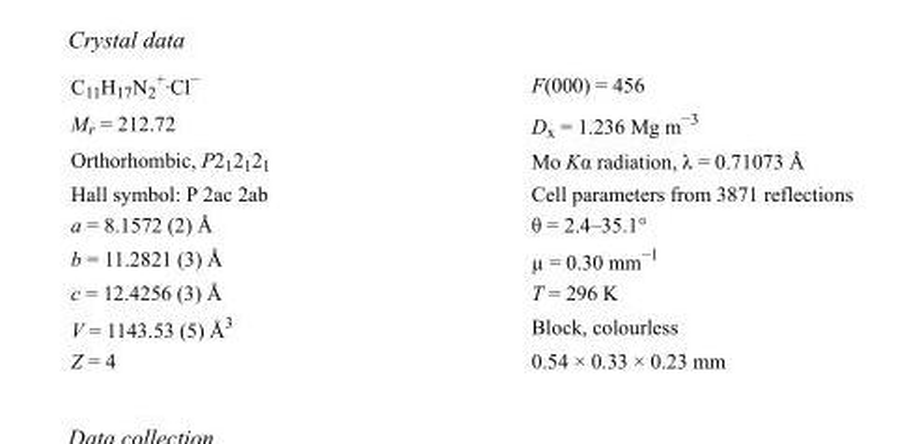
<table><tbody><tr><td>C<sub>11</sub>H<sub>17</sub>N<sub>2</sub> <sup>+</sup>·Cl<sup>−</sup></td><td>F(000) = 456</td></tr><tr><td>M<sub>r</sub> = 212.72</td><td>D<sub>x</sub> = 1.236 Mg m<sup>−3</sup></td></tr><tr><td>Orthorhombic, P2<sub>1</sub>2<sub>1</sub>2<sub>1</sub></td><td>Mo Kα radiation, λ = 0.71073 Å</td></tr><tr><td>Hall symbol: P 2ac 2ab</td><td>Cell parameters from 3871 reflections</td></tr><tr><td>a = 8.1572 (2) Å</td><td>θ = 2.4–35.1°</td></tr><tr><td>b = 11.2821 (3) Å</td><td>µ = 0.30 mm<sup>−1</sup></td></tr><tr><td>c = 12.4256 (3) Å</td><td>T = 296 K</td></tr><tr><td>V = 1143.53 (5) Å<sup>3</sup></td><td>Block, colourless</td></tr><tr><td>Z = 4</td><td>0.54 × 0.33 × 0.23 mm</td></tr></tbody></table>